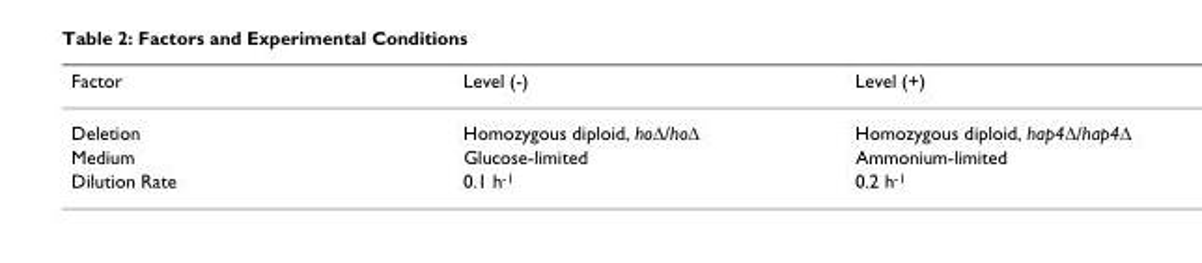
<table><thead><tr><td>Factor</td><td>Level (-)</td><td>Level (+)</td></tr></thead><tbody><tr><td>Deletion</td><td>Homozygous diploid, ho∆/ho∆</td><td>Homozygous diploid, hap4∆/hap4∆</td></tr><tr><td>Medium</td><td>Glucose-limited</td><td>Ammonium-limited</td></tr><tr><td>Dilution Rate</td><td>0.1 h-1</td><td>0.2 h-1</td></tr></tbody></table>